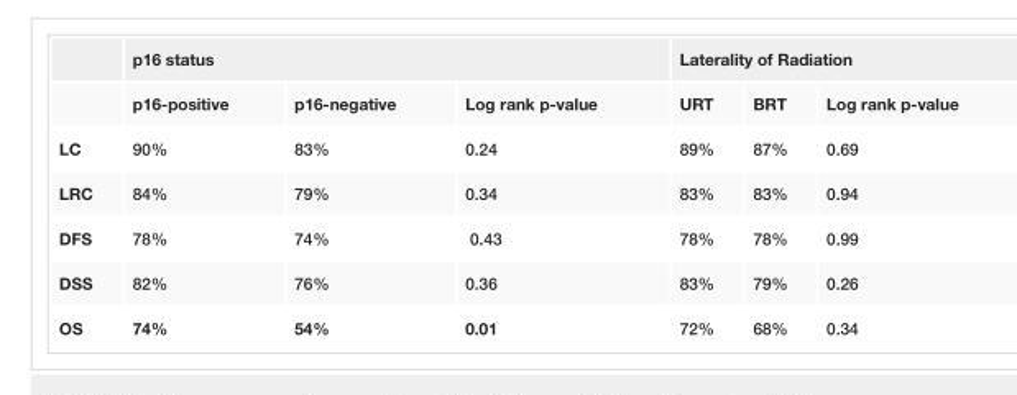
<table><thead><tr><td rowspan="2"></td><td colspan="3">p16 status</td><td colspan="3">Laterality of Radiation</td></tr><tr><td>p16-positive</td><td>p16-negative</td><td>Log rank p-value</td><td>URT</td><td>BRT</td><td>Log rank p-value</td></tr></thead><tbody><tr><td>LC</td><td>90%</td><td>83%</td><td>0.24</td><td>89%</td><td>87%</td><td>0.69</td></tr><tr><td>LRC</td><td>84%</td><td>79%</td><td>0.34</td><td>83%</td><td>83%</td><td>0.94</td></tr><tr><td>DFS</td><td>78%</td><td>74%</td><td>0.43</td><td>78%</td><td>78%</td><td>0.99</td></tr><tr><td>DSS</td><td>82%</td><td>76%</td><td>0.36</td><td>83%</td><td>79%</td><td>0.26</td></tr><tr><td>OS</td><td>74%</td><td>54%</td><td>0.01</td><td>72%</td><td>68%</td><td>0.34</td></tr></tbody></table>